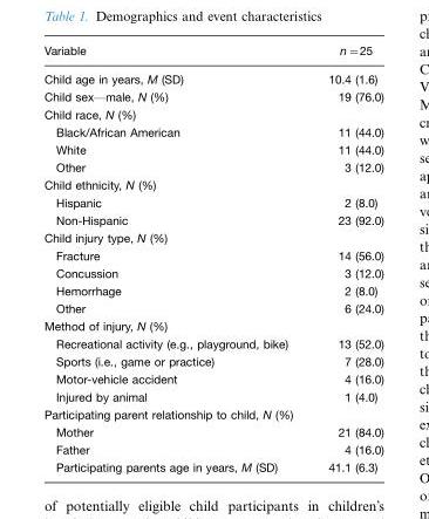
<table><thead><tr><td>Variable</td><td>n=25</td></tr></thead><tbody><tr><td>Child age in years, M (SD)</td><td>10.4 (1.6)</td></tr><tr><td>Child sex*male, N (%)</td><td>19 (76.0)</td></tr><tr><td colspan="2">Child race, N (%)</td></tr><tr><td>Black/African American</td><td>11 (44.0)</td></tr><tr><td>White</td><td>11 (44.0)</td></tr><tr><td>Other</td><td>3 (12.0)</td></tr><tr><td colspan="2">Child ethnicity, N (%)</td></tr><tr><td>Hispanic</td><td>2 (8.0)</td></tr><tr><td>Non-Hispanic</td><td>23 (92.0)</td></tr><tr><td colspan="2">Child injury type, N (%)</td></tr><tr><td>Fracture</td><td>14 (56.0)</td></tr><tr><td>Concussion</td><td>3 (12.0)</td></tr><tr><td>Hemorrhage</td><td>2 (8.0)</td></tr><tr><td>Other</td><td>6 (24.0)</td></tr><tr><td colspan="2">Method of injury, N (%)</td></tr><tr><td>Recreational activity (e.g., playground, bike)</td><td>13 (52.0)</td></tr><tr><td>Sports (i.e., game or practice)</td><td>7 (28.0)</td></tr><tr><td>Motor-vehicle accident</td><td>4 (16.0)</td></tr><tr><td>Injured by animal</td><td>1 (4.0)</td></tr><tr><td colspan="2">Participating parent relationship to child, N (%)</td></tr><tr><td>Mother</td><td>21 (84.0)</td></tr><tr><td>Father</td><td>4 (16.0)</td></tr><tr><td>Participating parents age in years, M (SD)</td><td>41.1 (6.3)</td></tr></tbody></table>